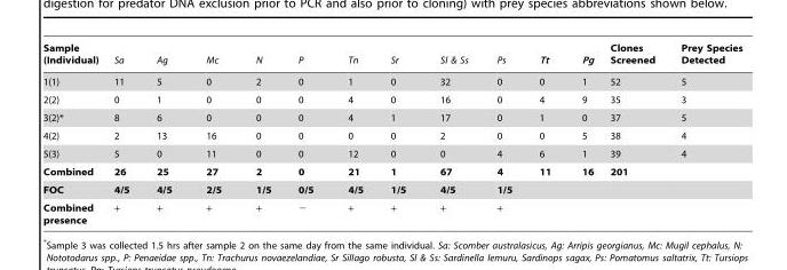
<table><thead><tr><td>Sample (Individual)</td><td>Sa</td><td>Ag</td><td>Mc</td><td>N</td><td>P</td><td>Tn</td><td>Sr</td><td>Sl &amp; Ss</td><td>Ps</td><td>Tt</td><td>Pg</td><td>Clones Screened</td><td>Prey Species Detected</td></tr></thead><tbody><tr><td>1(1)</td><td>11</td><td>5</td><td>0</td><td>2</td><td>0</td><td>1</td><td>0</td><td>32</td><td>0</td><td>0</td><td>1</td><td>52</td><td>5</td></tr><tr><td>2(2)</td><td>0</td><td>1</td><td>0</td><td>0</td><td>0</td><td>4</td><td>0</td><td>16</td><td>0</td><td>4</td><td>9</td><td>35</td><td>3</td></tr><tr><td>3(2)*</td><td>8</td><td>6</td><td>0</td><td>0</td><td>0</td><td>4</td><td>1</td><td>17</td><td>0</td><td>1</td><td>0</td><td>37</td><td>5</td></tr><tr><td>4(2)</td><td>2</td><td>13</td><td>16</td><td>0</td><td>0</td><td>0</td><td>0</td><td>2</td><td>0</td><td>0</td><td>5</td><td>38</td><td>4</td></tr><tr><td>5(3)</td><td>5</td><td>0</td><td>11</td><td>0</td><td>0</td><td>12</td><td>0</td><td>0</td><td>4</td><td>6</td><td>1</td><td>39</td><td>4</td></tr><tr><td>Combined</td><td>26</td><td>25</td><td>27</td><td>2</td><td>0</td><td>21</td><td>1</td><td>67</td><td>4</td><td>11</td><td>16</td><td>201</td><td></td></tr><tr><td>FOC</td><td>4/5</td><td>4/5</td><td>2/5</td><td>1/5</td><td>0/5</td><td>4/5</td><td>1/5</td><td>4/5</td><td>1/5</td><td></td><td></td><td></td><td></td></tr><tr><td>Combined presence</td><td>+</td><td>+</td><td>+</td><td>+</td><td>−</td><td>+</td><td>+</td><td>+</td><td>+</td><td></td><td></td><td></td><td></td></tr></tbody></table>